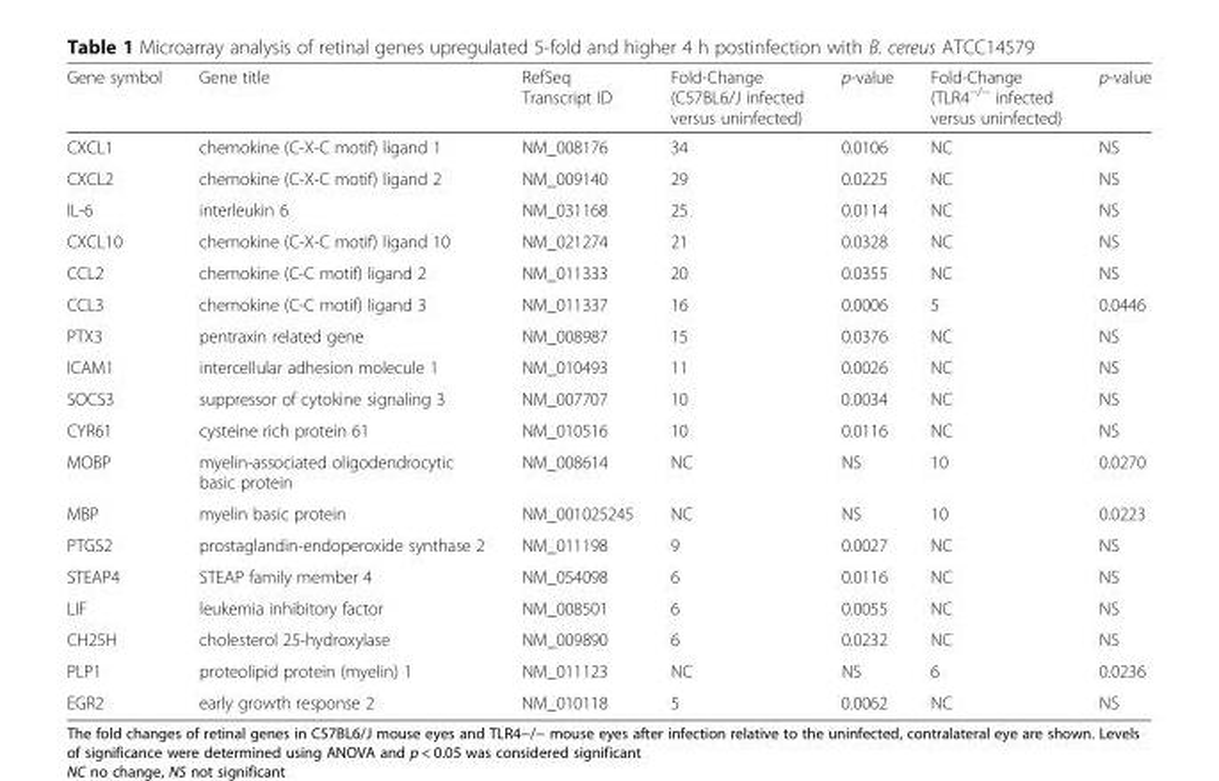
<table><thead><tr><td>Gene symbol</td><td>Gene title</td><td>RefSeq Transcript ID</td><td>Fold-Change (C57BL6/J infected versus uninfected)</td><td>p-value</td><td>Fold-Change (TLR4<sup>−/−</sup> infected versus uninfected)</td><td>p-value</td></tr></thead><tbody><tr><td>CXCL1</td><td>chemokine (C-X-C motif) ligand 1</td><td>NM_008176</td><td>34</td><td>0.0106</td><td>NC</td><td>NS</td></tr><tr><td>CXCL2</td><td>chemokine (C-X-C motif) ligand 2</td><td>NM_009140</td><td>29</td><td>0.0225</td><td>NC</td><td>NS</td></tr><tr><td>IL-6</td><td>interleukin 6</td><td>NM_031168</td><td>25</td><td>0.0114</td><td>NC</td><td>NS</td></tr><tr><td>CXCL10</td><td>chemokine (C-X-C motif) ligand 10</td><td>NM_021274</td><td>21</td><td>0.0328</td><td>NC</td><td>NS</td></tr><tr><td>CCL2</td><td>chemokine (C-C motif) ligand 2</td><td>NM_011333</td><td>20</td><td>0.0355</td><td>NC</td><td>NS</td></tr><tr><td>CCL3</td><td>chemokine (C-C motif) ligand 3</td><td>NM_011337</td><td>16</td><td>0.0006</td><td>5</td><td>0.0446</td></tr><tr><td>PTX3</td><td>pentraxin related gene</td><td>NM_008987</td><td>15</td><td>0.0376</td><td>NC</td><td>NS</td></tr><tr><td>ICAM1</td><td>intercellular adhesion molecule 1</td><td>NM_010493</td><td>11</td><td>0.0026</td><td>NC</td><td>NS</td></tr><tr><td>SOCS3</td><td>suppressor of cytokine signaling 3</td><td>NM_007707</td><td>10</td><td>0.0034</td><td>NC</td><td>NS</td></tr><tr><td>CYR61</td><td>cysteine rich protein 61</td><td>NM_010516</td><td>10</td><td>0.0116</td><td>NC</td><td>NS</td></tr><tr><td>MOBP</td><td>myelin-associated oligodendrocytic basic protein</td><td>NM_008614</td><td>NC</td><td>NS</td><td>10</td><td>0.0270</td></tr><tr><td>MBP</td><td>myelin basic protein</td><td>NM_001025245</td><td>NC</td><td>NS</td><td>10</td><td>0.0223</td></tr><tr><td>PTGS2</td><td>prostaglandin-endoperoxide synthase 2</td><td>NM_011198</td><td>9</td><td>0.0027</td><td>NC</td><td>NS</td></tr><tr><td>STEAP4</td><td>STEAP family member 4</td><td>NM_054098</td><td>6</td><td>0.0116</td><td>NC</td><td>NS</td></tr><tr><td>LIF</td><td>leukemia inhibitory factor</td><td>NM_008501</td><td>6</td><td>0.0055</td><td>NC</td><td>NS</td></tr><tr><td>CH25H</td><td>cholesterol 25-hydroxylase</td><td>NM_009890</td><td>6</td><td>0.0232</td><td>NC</td><td>NS</td></tr><tr><td>PLP1</td><td>proteolipid protein (myelin) 1</td><td>NM_011123</td><td>NC</td><td>NS</td><td>6</td><td>0.0236</td></tr><tr><td>EGR2</td><td>early growth response 2</td><td>NM_010118</td><td>5</td><td>0.0062</td><td>NC</td><td>NS</td></tr></tbody></table>